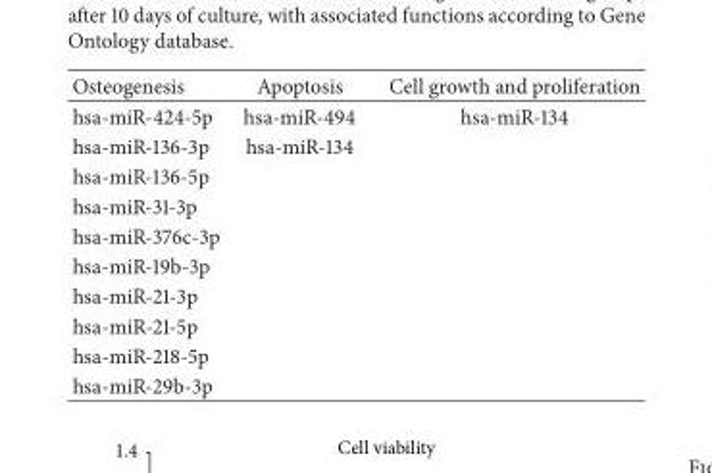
<table><thead><tr><td>Osteogenesis</td><td>Apoptosis</td><td>Cell growth and proliferation</td></tr></thead><tbody><tr><td>hsa-miR-424-5p</td><td>hsa-miR-494</td><td>hsa-miR-134</td></tr><tr><td>hsa-miR-136-3p</td><td>hsa-miR-134</td><td></td></tr><tr><td colspan="3">hsa-miR-136-5p</td></tr><tr><td colspan="3">hsa-miR-31-3p</td></tr><tr><td colspan="3">hsa-miR-376c-3p</td></tr><tr><td colspan="3">hsa-miR-19b-3p</td></tr><tr><td colspan="3">hsa-miR-21-3p</td></tr><tr><td colspan="3">hsa-miR-21-5p</td></tr><tr><td colspan="3">hsa-miR-218-5p</td></tr><tr><td>hsa-miR-29b-3p</td><td></td><td></td></tr></tbody></table>